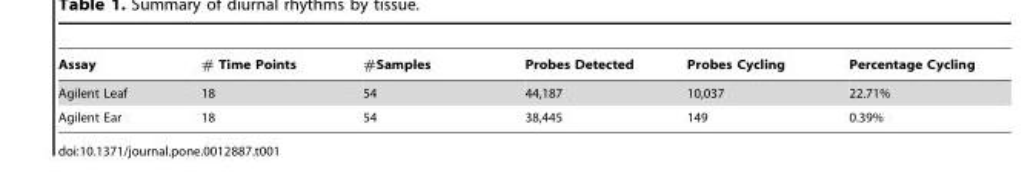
<table><thead><tr><td>Assay</td><td># Time Points</td><td>#Samples</td><td>Probes Detected</td><td>Probes Cycling</td><td>Percentage Cycling</td></tr></thead><tbody><tr><td>Agilent Leaf</td><td>18</td><td>54</td><td>44,187</td><td>10,037</td><td>22.71%</td></tr><tr><td>Agilent Ear</td><td>18</td><td>54</td><td>38,445</td><td>149</td><td>0.39%</td></tr></tbody></table>